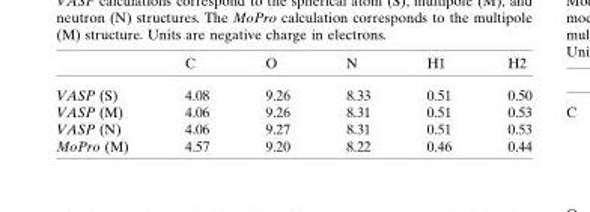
<table><thead><tr><td></td><td>C</td><td>O</td><td>N</td><td>H1</td><td>H2</td></tr></thead><tbody><tr><td>VASP (S)</td><td>4.08</td><td>9.26</td><td>8.33</td><td>0.51</td><td>0.50</td></tr><tr><td>VASP (M)</td><td>4.06</td><td>9.26</td><td>8.31</td><td>0.51</td><td>0.53</td></tr><tr><td>VASP (N)</td><td>4.06</td><td>9.27</td><td>8.31</td><td>0.51</td><td>0.53</td></tr><tr><td>MoPro (M)</td><td>4.57</td><td>9.20</td><td>8.22</td><td>0.46</td><td>0.44</td></tr></tbody></table>